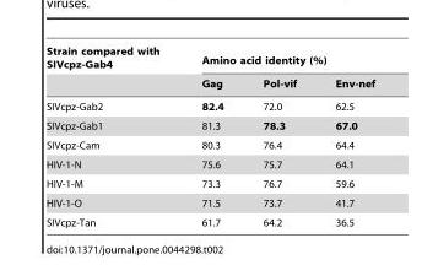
<table><thead><tr><td rowspan="2">Strain compared with SIVcpz-Gab4</td><td colspan="3">Amino acid identity (%)</td></tr><tr><td>Gag</td><td>Pol-vif</td><td>Env-nef</td></tr></thead><tbody><tr><td>SIVcpz-Gab2</td><td>82.4</td><td>72.0</td><td>62.5</td></tr><tr><td>SIVcpz-Gab1</td><td>81.3</td><td>78.3</td><td>67.0</td></tr><tr><td>SIVcpz-Cam</td><td>80.3</td><td>76.4</td><td>64.4</td></tr><tr><td>HIV-1-N</td><td>75.6</td><td>75.7</td><td>64.1</td></tr><tr><td>HIV-1-M</td><td>73.3</td><td>76.7</td><td>59.6</td></tr><tr><td>HIV-1-O</td><td>71.5</td><td>73.7</td><td>41.7</td></tr><tr><td>SIVcpz-Tan</td><td>61.7</td><td>64.2</td><td>36.5</td></tr></tbody></table>